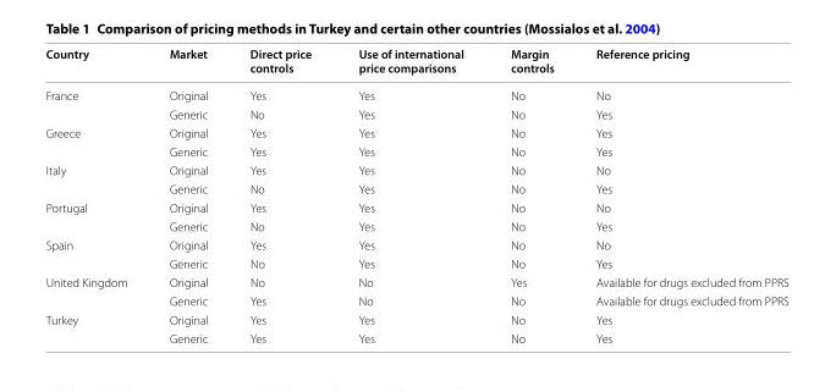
<table><thead><tr><td>Country</td><td>Market</td><td>Direct price controls</td><td>Use of international price comparisons</td><td>Margin controls</td><td>Reference pricing</td></tr></thead><tbody><tr><td rowspan="2">France</td><td>Original</td><td>Yes</td><td>Yes</td><td>No</td><td>No</td></tr><tr><td>Generic</td><td>No</td><td>Yes</td><td>No</td><td>Yes</td></tr><tr><td rowspan="2">Greece</td><td>Original</td><td>Yes</td><td>Yes</td><td>No</td><td>Yes</td></tr><tr><td>Generic</td><td>Yes</td><td>Yes</td><td>No</td><td>Yes</td></tr><tr><td rowspan="2">Italy</td><td>Original</td><td>Yes</td><td>Yes</td><td>No</td><td>No</td></tr><tr><td>Generic</td><td>No</td><td>Yes</td><td>No</td><td>Yes</td></tr><tr><td rowspan="2">Portugal</td><td>Original</td><td>Yes</td><td>Yes</td><td>No</td><td>No</td></tr><tr><td>Generic</td><td>No</td><td>Yes</td><td>No</td><td>Yes</td></tr><tr><td rowspan="2">Spain</td><td>Original</td><td>Yes</td><td>Yes</td><td>No</td><td>No</td></tr><tr><td>Generic</td><td>No</td><td>Yes</td><td>No</td><td>Yes</td></tr><tr><td rowspan="2">United Kingdom</td><td>Original</td><td>No</td><td>No</td><td>Yes</td><td>Available for drugs excluded from PPRS</td></tr><tr><td>Generic</td><td>Yes</td><td>No</td><td>No</td><td>Available for drugs excluded from PPRS</td></tr><tr><td rowspan="2">Turkey</td><td>Original</td><td>Yes</td><td>Yes</td><td>No</td><td>Yes</td></tr><tr><td>Generic</td><td>Yes</td><td>Yes</td><td>No</td><td>Yes</td></tr></tbody></table>